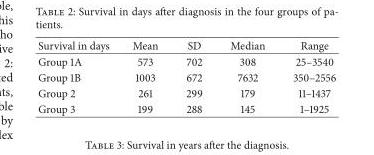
<table><thead><tr><td>Survival in days</td><td>Mean</td><td>SD</td><td>Median</td><td>Range</td></tr></thead><tbody><tr><td>Group 1A</td><td>573</td><td>702</td><td>308</td><td>25–3540</td></tr><tr><td>Group 1B</td><td>1003</td><td>672</td><td>7632</td><td>350–2556</td></tr><tr><td>Group 2</td><td>261</td><td>299</td><td>179</td><td>11–1437</td></tr><tr><td>Group 3</td><td>199</td><td>288</td><td>145</td><td>1–1925</td></tr></tbody></table>